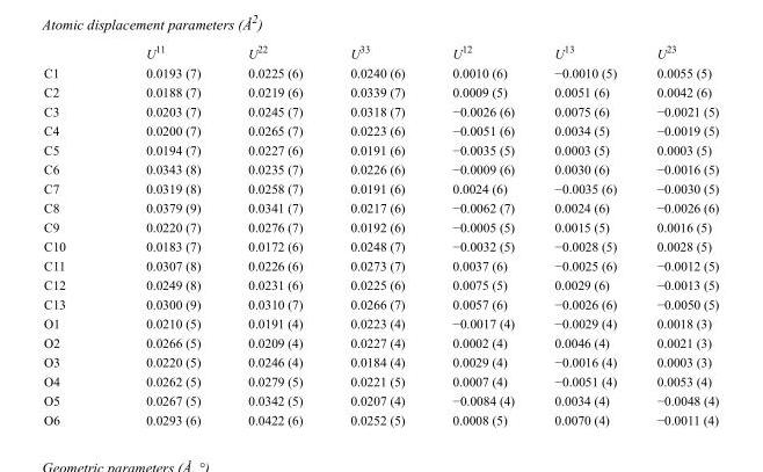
<table><thead><tr><td></td><td>U<sup>11</sup></td><td>U<sup>22</sup></td><td>U<sup>33</sup></td><td>U<sup>12</sup></td><td>U<sup>13</sup></td><td>U<sup>23</sup></td></tr></thead><tbody><tr><td>C1</td><td>0.0193 (7)</td><td>0.0225 (6)</td><td>0.0240 (6)</td><td>0.0010 (6)</td><td>−0.0010 (5)</td><td>0.0055 (5)</td></tr><tr><td>C2</td><td>0.0188 (7)</td><td>0.0219 (6)</td><td>0.0339 (7)</td><td>0.0009 (5)</td><td>0.0051 (6)</td><td>0.0042 (6)</td></tr><tr><td>C3</td><td>0.0203 (7)</td><td>0.0245 (7)</td><td>0.0318 (7)</td><td>−0.0026 (6)</td><td>0.0075 (6)</td><td>−0.0021 (5)</td></tr><tr><td>C4</td><td>0.0200 (7)</td><td>0.0265 (7)</td><td>0.0223 (6)</td><td>−0.0051 (6)</td><td>0.0034 (5)</td><td>−0.0019 (5)</td></tr><tr><td>C5</td><td>0.0194 (7)</td><td>0.0227 (6)</td><td>0.0191 (6)</td><td>−0.0035 (5)</td><td>0.0003 (5)</td><td>0.0003 (5)</td></tr><tr><td>C6</td><td>0.0343 (8)</td><td>0.0235 (7)</td><td>0.0226 (6)</td><td>−0.0009 (6)</td><td>0.0030 (6)</td><td>−0.0016 (5)</td></tr><tr><td>C7</td><td>0.0319 (8)</td><td>0.0258 (7)</td><td>0.0191 (6)</td><td>0.0024 (6)</td><td>−0.0035 (6)</td><td>−0.0030 (5)</td></tr><tr><td>C8</td><td>0.0379 (9)</td><td>0.0341 (7)</td><td>0.0217 (6)</td><td>−0.0062 (7)</td><td>0.0024 (6)</td><td>−0.0026 (6)</td></tr><tr><td>C9</td><td>0.0220 (7)</td><td>0.0276 (7)</td><td>0.0192 (6)</td><td>−0.0005 (5)</td><td>0.0015 (5)</td><td>0.0016 (5)</td></tr><tr><td>C10</td><td>0.0183 (7)</td><td>0.0172 (6)</td><td>0.0248 (7)</td><td>−0.0032 (5)</td><td>−0.0028 (5)</td><td>0.0028 (5)</td></tr><tr><td>C11</td><td>0.0307 (8)</td><td>0.0226 (6)</td><td>0.0273 (7)</td><td>0.0037 (6)</td><td>−0.0025 (6)</td><td>−0.0012 (5)</td></tr><tr><td>C12</td><td>0.0249 (8)</td><td>0.0231 (6)</td><td>0.0225 (6)</td><td>0.0075 (5)</td><td>0.0029 (6)</td><td>−0.0013 (5)</td></tr><tr><td>C13</td><td>0.0300 (9)</td><td>0.0310 (7)</td><td>0.0266 (7)</td><td>0.0057 (6)</td><td>−0.0026 (6)</td><td>−0.0050 (5)</td></tr><tr><td>O1</td><td>0.0210 (5)</td><td>0.0191 (4)</td><td>0.0223 (4)</td><td>−0.0017 (4)</td><td>−0.0029 (4)</td><td>0.0018 (3)</td></tr><tr><td>O2</td><td>0.0266 (5)</td><td>0.0209 (4)</td><td>0.0227 (4)</td><td>0.0002 (4)</td><td>0.0046 (4)</td><td>0.0021 (3)</td></tr><tr><td>O3</td><td>0.0220 (5)</td><td>0.0246 (4)</td><td>0.0184 (4)</td><td>0.0029 (4)</td><td>−0.0016 (4)</td><td>0.0003 (3)</td></tr><tr><td>O4</td><td>0.0262 (5)</td><td>0.0279 (5)</td><td>0.0221 (5)</td><td>0.0007 (4)</td><td>−0.0051 (4)</td><td>0.0053 (4)</td></tr><tr><td>O5</td><td>0.0267 (5)</td><td>0.0342 (5)</td><td>0.0207 (4)</td><td>−0.0084 (4)</td><td>0.0034 (4)</td><td>−0.0048 (4)</td></tr><tr><td>O6</td><td>0.0293 (6)</td><td>0.0422 (6)</td><td>0.0252 (5)</td><td>0.0008 (5)</td><td>0.0070 (4)</td><td>−0.0011 (4)</td></tr></tbody></table>